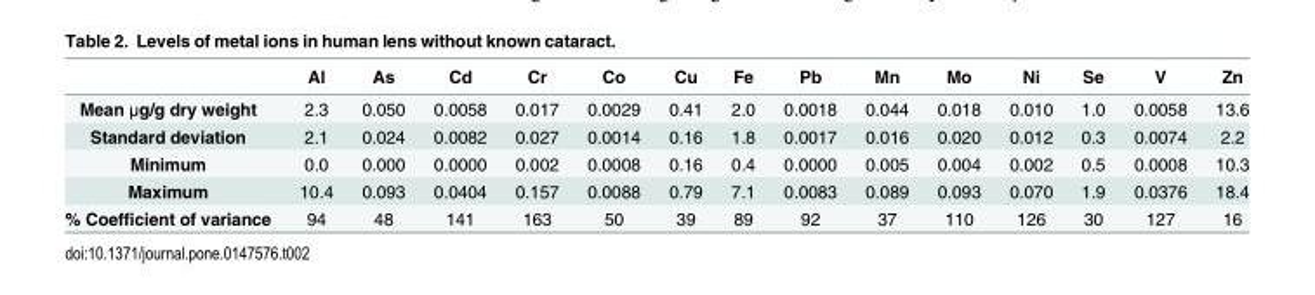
<table><thead><tr><td></td><td>Al</td><td>As</td><td>Cd</td><td>Cr</td><td>Co</td><td>Cu</td><td>Fe</td><td>Pb</td><td>Mn</td><td>Mo</td><td>Ni</td><td>Se</td><td>V</td><td>Zn</td></tr></thead><tbody><tr><td>Mean μg/g dry weight</td><td>2.3</td><td>0.050</td><td>0.0058</td><td>0.017</td><td>0.0029</td><td>0.41</td><td>2.0</td><td>0.0018</td><td>0.044</td><td>0.018</td><td>0.010</td><td>1.0</td><td>0.0058</td><td>13.6</td></tr><tr><td>Standard deviation</td><td>2.1</td><td>0.024</td><td>0.0082</td><td>0.027</td><td>0.0014</td><td>0.16</td><td>1.8</td><td>0.0017</td><td>0.016</td><td>0.020</td><td>0.012</td><td>0.3</td><td>0.0074</td><td>2.2</td></tr><tr><td>Minimum</td><td>0.0</td><td>0.000</td><td>0.0000</td><td>0.002</td><td>0.0008</td><td>0.16</td><td>0.4</td><td>0.0000</td><td>0.005</td><td>0.004</td><td>0.002</td><td>0.5</td><td>0.0008</td><td>10.3</td></tr><tr><td>Maximum</td><td>10.4</td><td>0.093</td><td>0.0404</td><td>0.157</td><td>0.0088</td><td>0.79</td><td>7.1</td><td>0.0083</td><td>0.089</td><td>0.093</td><td>0.070</td><td>1.9</td><td>0.0376</td><td>18.4</td></tr><tr><td>% Coefficient of variance</td><td>94</td><td>48</td><td>141</td><td>163</td><td>50</td><td>39</td><td>89</td><td>92</td><td>37</td><td>110</td><td>126</td><td>30</td><td>127</td><td>16</td></tr></tbody></table>